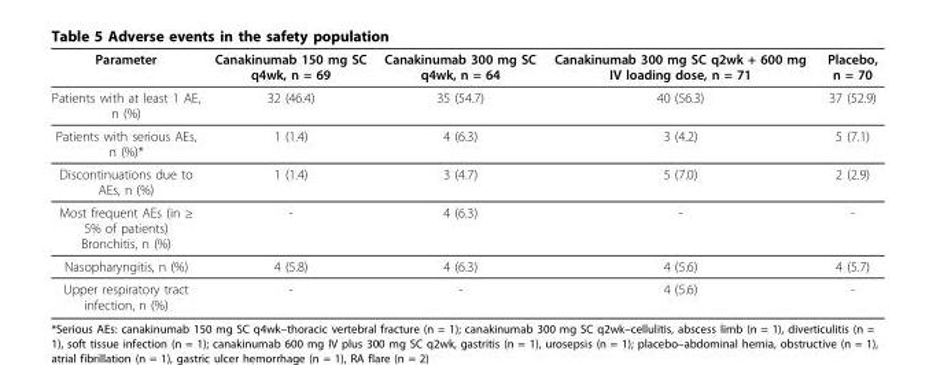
<table><thead><tr><td>Parameter</td><td>Canakinumab 150 mg SC q4wk, n = 69</td><td>Canakinumab 300 mg SC q4wk, n = 64</td><td>Canakinumab 300 mg SC q2wk + 600 mg IV loading dose, n = 71</td><td>Placebo, n = 70</td></tr></thead><tbody><tr><td>Patients with at least 1 AE, n (%)</td><td>32 (46.4)</td><td>35 (54.7)</td><td>40 (56.3)</td><td>37 (52.9)</td></tr><tr><td>Patients with serious AEs, n (%)*</td><td>1 (1.4)</td><td>4 (6.3)</td><td>3 (4.2)</td><td>5 (7.1)</td></tr><tr><td>Discontinuations due to AEs, n (%)</td><td>1 (1.4)</td><td>3 (4.7)</td><td>5 (7.0)</td><td>2 (2.9)</td></tr><tr><td>Most frequent AEs (in ≥ 5% of patients) Bronchitis, n (%)</td><td>-</td><td>4 (6.3)</td><td>-</td><td>-</td></tr><tr><td>Nasopharyngitis, n (%)</td><td>4 (5.8)</td><td>4 (6.3)</td><td>4 (5.6)</td><td>4 (5.7)</td></tr><tr><td>Upper respiratory tract infection, n (%)</td><td>-</td><td>-</td><td>4 (5.6)</td><td>-</td></tr></tbody></table>